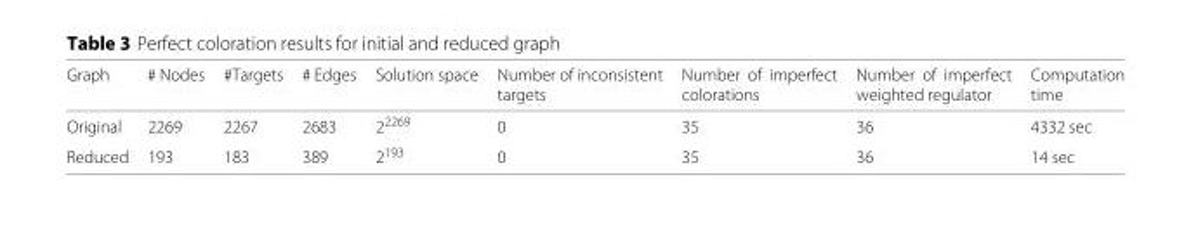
<table><thead><tr><td>Graph</td><td># Nodes</td><td>#Targets</td><td># Edges</td><td>Solution space</td><td>Number of inconsistent targets</td><td>Number of imperfect colorations</td><td>Number of imperfect weighted regulator</td><td>Computation time</td></tr></thead><tbody><tr><td>Original</td><td>2269</td><td>2267</td><td>2683</td><td>2<sup>2269</sup></td><td>0</td><td>35</td><td>36</td><td>4332 sec</td></tr><tr><td>Reduced</td><td>193</td><td>183</td><td>389</td><td>2<sup>193</sup></td><td>0</td><td>35</td><td>36</td><td>14 sec</td></tr></tbody></table>